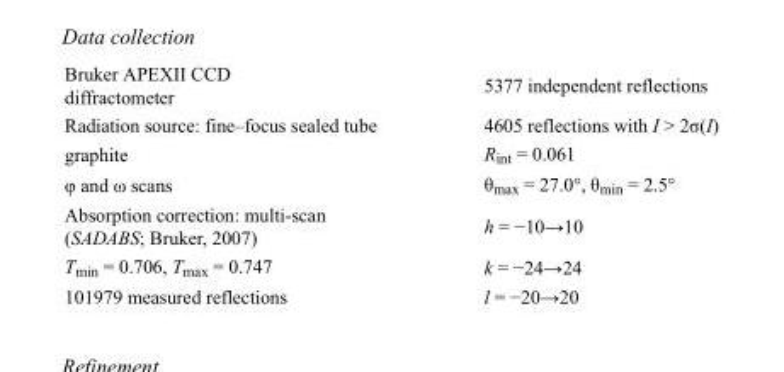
<table><tbody><tr><td>Bruker APEXII CCD diffractometer</td><td>5377 independent reflections</td></tr><tr><td>Radiation source: fine–focus sealed tube</td><td>4605 reflections with I &gt; 2σ(I)</td></tr><tr><td>graphite</td><td>R<sub>int</sub> = 0.061</td></tr><tr><td>φ and ω scans</td><td>θ<sub>max</sub> = 27.0°, θ<sub>min</sub> = 2.5°</td></tr><tr><td>Absorption correction: multi-scan (SADABS; Bruker, 2007)</td><td>h = −10→10</td></tr><tr><td>T<sub>min</sub> = 0.706, T<sub>max</sub> = 0.747</td><td>k = −24→24</td></tr><tr><td>101979 measured reflections</td><td>l = −20→20</td></tr></tbody></table>